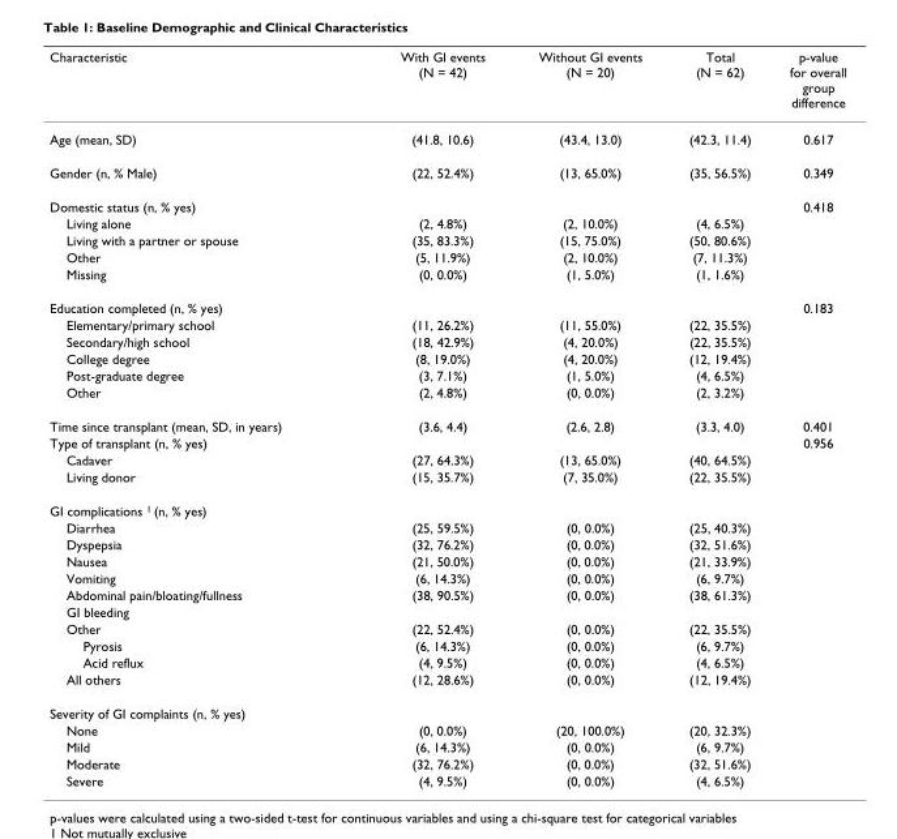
<table><thead><tr><td>Characteristic</td><td>With GI events (N = 42)</td><td>Without GI events (N = 20)</td><td>Total (N = 62)</td><td>p-value for overall group difference</td></tr></thead><tbody><tr><td>Age (mean, SD)</td><td>(41.8, 10.6)</td><td>(43.4, 13.0)</td><td>(42.3, 11.4)</td><td>0.617</td></tr><tr><td>Gender (n, % Male)</td><td>(22, 52.4%)</td><td>(13, 65.0%)</td><td>(35, 56.5%)</td><td>0.349</td></tr><tr><td>Domestic status (n, % yes)</td><td></td><td></td><td></td><td>0.418</td></tr><tr><td>Living alone</td><td>(2, 4.8%)</td><td>(2, 10.0%)</td><td>(4, 6.5%)</td><td></td></tr><tr><td>Living with a partner or spouse</td><td>(35, 83.3%)</td><td>(15, 75.0%)</td><td>(50, 80.6%)</td><td></td></tr><tr><td>Other</td><td>(5, 11.9%)</td><td>(2, 10.0%)</td><td>(7, 11.3%)</td><td></td></tr><tr><td>Missing</td><td>(0, 0.0%)</td><td>(1, 5.0%)</td><td>(1, 1.6%)</td><td></td></tr><tr><td>Education completed (n, % yes)</td><td></td><td></td><td></td><td>0.183</td></tr><tr><td>Elementary/primary school</td><td>(11, 26.2%)</td><td>(11, 55.0%)</td><td>(22, 35.5%)</td><td></td></tr><tr><td>Secondary/high school</td><td>(18, 42.9%)</td><td>(4, 20.0%)</td><td>(22, 35.5%)</td><td></td></tr><tr><td>College degree</td><td>(8, 19.0%)</td><td>(4, 20.0%)</td><td>(12, 19.4%)</td><td></td></tr><tr><td>Post-graduate degree</td><td>(3, 7.1%)</td><td>(1, 5.0%)</td><td>(4, 6.5%)</td><td></td></tr><tr><td>Other</td><td>(2, 4.8%)</td><td>(0, 0.0%)</td><td>(2, 3.2%)</td><td></td></tr><tr><td>Time since transplant (mean, SD, in years)</td><td>(3.6, 4.4)</td><td>(2.6, 2.8)</td><td>(3.3, 4.0)</td><td>0.401</td></tr><tr><td>Type of transplant (n, % yes)</td><td></td><td></td><td></td><td>0.956</td></tr><tr><td>Cadaver</td><td>(27, 64.3%)</td><td>(13, 65.0%)</td><td>(40, 64.5%)</td><td></td></tr><tr><td>Living donor</td><td>(15, 35.7%)</td><td>(7, 35.0%)</td><td>(22, 35.5%)</td><td></td></tr><tr><td colspan="5">GI complications <sup>1</sup> (n, % yes)</td></tr><tr><td>Diarrhea</td><td>(25, 59.5%)</td><td>(0, 0.0%)</td><td>(25, 40.3%)</td><td></td></tr><tr><td>Dyspepsia</td><td>(32, 76.2%)</td><td>(0, 0.0%)</td><td>(32, 51.6%)</td><td></td></tr><tr><td>Nausea</td><td>(21, 50.0%)</td><td>(0, 0.0%)</td><td>(21, 33.9%)</td><td></td></tr><tr><td>Vomiting</td><td>(6, 14.3%)</td><td>(0, 0.0%)</td><td>(6, 9.7%)</td><td></td></tr><tr><td>Abdominal pain/bloating/fullness</td><td>(38, 90.5%)</td><td>(0, 0.0%)</td><td>(38, 61.3%)</td><td></td></tr><tr><td colspan="5">GI bleeding</td></tr><tr><td>Other</td><td>(22, 52.4%)</td><td>(0, 0.0%)</td><td>(22, 35.5%)</td><td></td></tr><tr><td>Pyrosis</td><td>(6, 14.3%)</td><td>(0, 0.0%)</td><td>(6, 9.7%)</td><td></td></tr><tr><td>Acid reflux</td><td>(4, 9.5%)</td><td>(0, 0.0%)</td><td>(4, 6.5%)</td><td></td></tr><tr><td>All others</td><td>(12, 28.6%)</td><td>(0, 0.0%)</td><td>(12, 19.4%)</td><td></td></tr><tr><td colspan="5">Severity of GI complaints (n, % yes)</td></tr><tr><td>None</td><td>(0, 0.0%)</td><td>(20, 100.0%)</td><td>(20, 32.3%)</td><td></td></tr><tr><td>Mild</td><td>(6, 14.3%)</td><td>(0, 0.0%)</td><td>(6, 9.7%)</td><td></td></tr><tr><td>Moderate</td><td>(32, 76.2%)</td><td>(0, 0.0%)</td><td>(32, 51.6%)</td><td></td></tr><tr><td>Severe</td><td>(4, 9.5%)</td><td>(0, 0.0%)</td><td>(4, 6.5%)</td><td></td></tr></tbody></table>